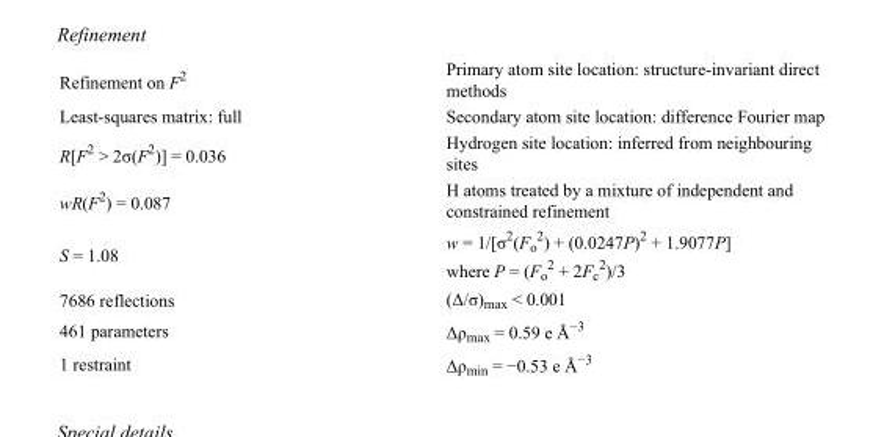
<table><tbody><tr><td>Refinement on F<sup>2</sup></td><td>Primary atom site location: structure-invariant direct methods</td></tr><tr><td>Least-squares matrix: full</td><td>Secondary atom site location: difference Fourier map</td></tr><tr><td>R[F<sup>2</sup> &gt; 2σ(F<sup>2</sup>)] = 0.036</td><td>Hydrogen site location: inferred from neighbouring sites</td></tr><tr><td>wR(F<sup>2</sup>) = 0.087</td><td>H atoms treated by a mixture of independent and constrained refinement</td></tr><tr><td>S = 1.08</td><td>w = 1/[σ<sup>2</sup>(F<sub>o</sub> <sup>2</sup>) + (0.0247P)<sup>2</sup> + 1.9077P] where P = (F<sub>o</sub> <sup>2</sup> + 2F<sub>c</sub> <sup>2</sup>)/3</td></tr><tr><td>7686 reflections</td><td>(Δ/σ)<sub>max</sub> &lt; 0.001</td></tr><tr><td>461 parameters</td><td>Δρ<sub>max</sub> = 0.59 e Å<sup>−3</sup></td></tr><tr><td>1 restraint</td><td>Δρ<sub>min</sub> = −0.53 e Å<sup>−3</sup></td></tr></tbody></table>